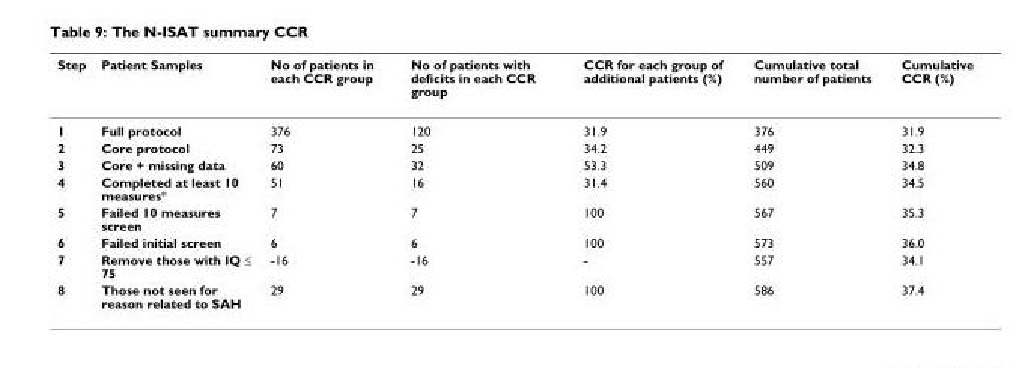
<table><thead><tr><td>Step</td><td>Patient Samples</td><td>No of patients in each CCR group</td><td>No of patients with deficits in each CCR group</td><td>CCR for each group of additional patients (%)</td><td>Cumulative total number of patients</td><td>Cumulative CCR (%)</td></tr></thead><tbody><tr><td>1</td><td>Full protocol</td><td>376</td><td>120</td><td>31.9</td><td>376</td><td>31.9</td></tr><tr><td>2</td><td>Core protocol</td><td>73</td><td>25</td><td>34.2</td><td>449</td><td>32.3</td></tr><tr><td>3</td><td>Core + missing data</td><td>60</td><td>32</td><td>53.3</td><td>509</td><td>34.8</td></tr><tr><td>4</td><td>Completed at least 10 measures*</td><td>51</td><td>16</td><td>31.4</td><td>560</td><td>34.5</td></tr><tr><td>5</td><td>Failed 10 measures screen</td><td>7</td><td>7</td><td>100</td><td>567</td><td>35.3</td></tr><tr><td>6</td><td>Failed initial screen</td><td>6</td><td>6</td><td>100</td><td>573</td><td>36.0</td></tr><tr><td>7</td><td>Remove those with IQ ≤ 75</td><td>-16</td><td>-16</td><td>-</td><td>557</td><td>34.1</td></tr><tr><td>8</td><td>Those not seen for reason related to SAH</td><td>29</td><td>29</td><td>100</td><td>586</td><td>37.4</td></tr></tbody></table>